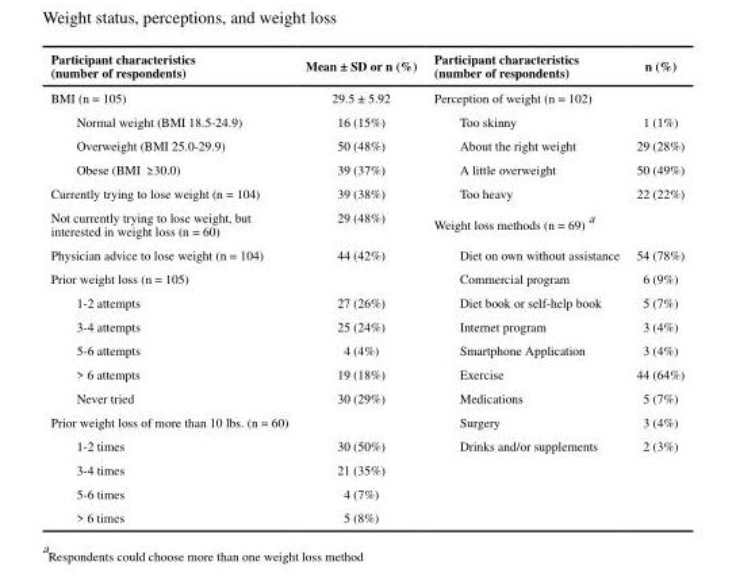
<table><thead><tr><td>Participant characteristics (number of respondents)</td><td>Mean ± SD or n (%)</td><td>Participant characteristics (number of respondents)</td><td>n (%)</td></tr></thead><tbody><tr><td>BMI (n = 105)</td><td>29.5 ± 5.92</td><td>Perception of weight (n = 102)</td><td></td></tr><tr><td>Normal weight (BMI 18.5-24.9)</td><td>16 (15%)</td><td>Too skinny</td><td>1 (1%)</td></tr><tr><td>Overweight (BMI 25.0-29.9)</td><td>50 (48%)</td><td>About the right weight</td><td>29 (28%)</td></tr><tr><td>Obese (BMI ≥ 30.0)</td><td>39 (37%)</td><td>A little overweight</td><td>50 (49%)</td></tr><tr><td>Currently trying to lose weight (n = 104)</td><td>39 (38%)</td><td>Too heavy</td><td>22 (22%)</td></tr><tr><td>Not currently trying to lose weight, but interested in weight loss (n = 60)</td><td>29 (48%)</td><td>Weight loss methods (n = 69) <sup>a</sup></td><td></td></tr><tr><td>Physician advice to lose weight (n = 104)</td><td>44 (42%)</td><td>Diet on own without assistance</td><td>54 (78%)</td></tr><tr><td>Prior weight loss (n = 105)</td><td></td><td>Commercial program</td><td>6 (9%)</td></tr><tr><td>1-2 attempts</td><td>27 (26%)</td><td>Diet book or self-help book</td><td>5 (7%)</td></tr><tr><td>3-4 attempts</td><td>25 (24%)</td><td>Internet program</td><td>3 (4%)</td></tr><tr><td>5-6 attempts</td><td>4 (4%)</td><td>Smartphone Application</td><td>3 (4%)</td></tr><tr><td>&gt; 6 attempts</td><td>19 (18%)</td><td>Exercise</td><td>44 (64%)</td></tr><tr><td>Never tried</td><td>30 (29%)</td><td>Medications</td><td>5 (7%)</td></tr><tr><td>Prior weight loss of more than 10 lbs. (n = 60)</td><td></td><td>Surgery</td><td>3 (4%)</td></tr><tr><td>1-2 times</td><td>30 (50%)</td><td>Drinks and/or supplements</td><td>2 (3%)</td></tr><tr><td>3-4 times</td><td>21 (35%)</td><td></td><td></td></tr><tr><td>5-6 times</td><td>4 (7%)</td><td></td><td></td></tr><tr><td>&gt; 6 times</td><td>5 (8%)</td><td></td><td></td></tr></tbody></table>